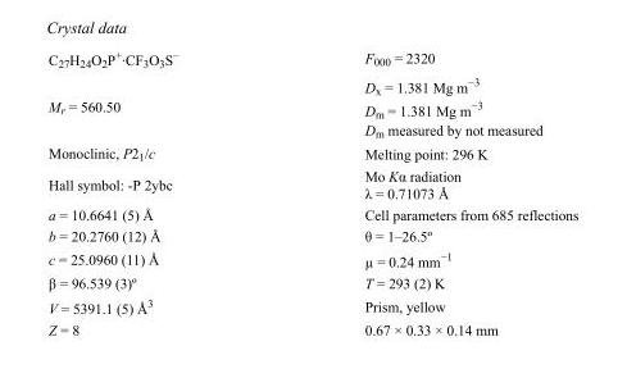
<table><tbody><tr><td>C<sub>27</sub>H<sub>24</sub>O<sub>2</sub>P<sup>+</sup>·CF<sub>3</sub>O<sub>3</sub>S<sup>–</sup></td><td>F000 = 2320</td></tr><tr><td>M<sub>r</sub> = 560.50</td><td>D<sub>x</sub> = 1.381 Mg m<sup>−3</sup> D<sub>m</sub> = 1.381 Mg m<sup>−3</sup> D<sub>m</sub> measured by not measured</td></tr><tr><td>Monoclinic, P2<sub>1</sub>/c</td><td>Melting point: 296 K</td></tr><tr><td>Hall symbol: -P 2ybc</td><td>Mo Kα radiation λ = 0.71073 Å</td></tr><tr><td>a = 10.6641 (5) Å</td><td>Cell parameters from 685 reflections</td></tr><tr><td>b = 20.2760 (12) Å</td><td>θ = 1–26.5º</td></tr><tr><td>c = 25.0960 (11) Å</td><td>µ = 0.24 mm<sup>−1</sup></td></tr><tr><td>β = 96.539 (3)º</td><td>T = 293 (2) K</td></tr><tr><td>V = 5391.1 (5) Å<sup>3</sup></td><td>Prism, yellow</td></tr><tr><td>Z = 8</td><td>0.67 × 0.33 × 0.14 mm</td></tr></tbody></table>